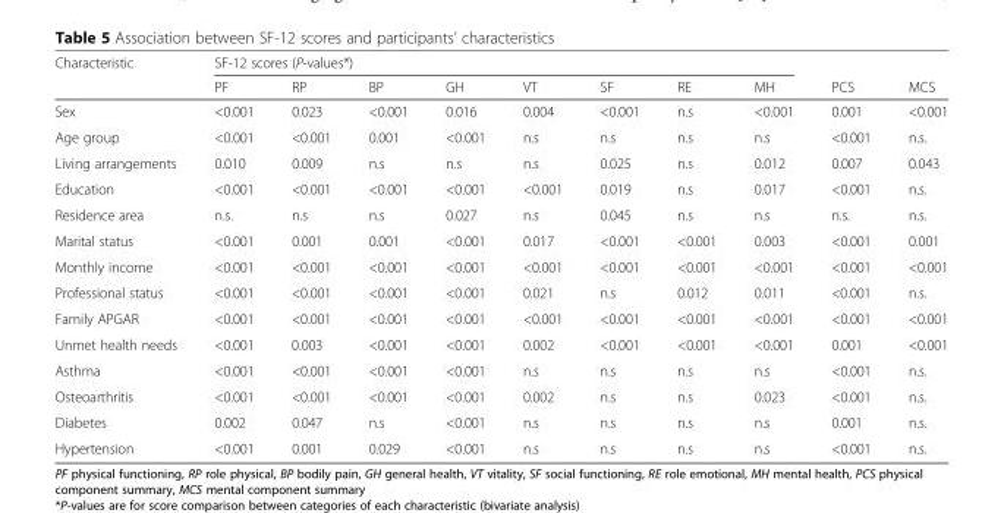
<table><thead><tr><td rowspan="2">Characteristic</td><td colspan="8">SF-12 scores (P-values*)</td><td rowspan="2">PCS</td><td rowspan="2">MCS</td></tr><tr><td>PF</td><td>RP</td><td>BP</td><td>GH</td><td>VT</td><td>SF</td><td>RE</td><td>MH</td></tr></thead><tbody><tr><td>Sex</td><td>&lt;0.001</td><td>0.023</td><td>&lt;0.001</td><td>0.016</td><td>0.004</td><td>&lt;0.001</td><td>n.s</td><td>&lt;0.001</td><td>0.001</td><td>&lt;0.001</td></tr><tr><td>Age group</td><td>&lt;0.001</td><td>&lt;0.001</td><td>0.001</td><td>&lt;0.001</td><td>n.s</td><td>n.s</td><td>n.s</td><td>n.s</td><td>&lt;0.001</td><td>n.s.</td></tr><tr><td>Living arrangements</td><td>0.010</td><td>0.009</td><td>n.s</td><td>n.s</td><td>n.s</td><td>0.025</td><td>n.s</td><td>0.012</td><td>0.007</td><td>0.043</td></tr><tr><td>Education</td><td>&lt;0.001</td><td>&lt;0.001</td><td>&lt;0.001</td><td>&lt;0.001</td><td>&lt;0.001</td><td>0.019</td><td>n.s</td><td>0.017</td><td>&lt;0.001</td><td>n.s.</td></tr><tr><td>Residence area</td><td>n.s.</td><td>n.s</td><td>n.s</td><td>0.027</td><td>n.s</td><td>0.045</td><td>n.s</td><td>n.s</td><td>n.s.</td><td>n.s.</td></tr><tr><td>Marital status</td><td>&lt;0.001</td><td>0.001</td><td>0.001</td><td>&lt;0.001</td><td>0.017</td><td>&lt;0.001</td><td>&lt;0.001</td><td>0.003</td><td>&lt;0.001</td><td>0.001</td></tr><tr><td>Monthly income</td><td>&lt;0.001</td><td>&lt;0.001</td><td>&lt;0.001</td><td>&lt;0.001</td><td>&lt;0.001</td><td>&lt;0.001</td><td>&lt;0.001</td><td>&lt;0.001</td><td>&lt;0.001</td><td>&lt;0.001</td></tr><tr><td>Professional status</td><td>&lt;0.001</td><td>&lt;0.001</td><td>&lt;0.001</td><td>&lt;0.001</td><td>0.021</td><td>n.s</td><td>0.012</td><td>0.011</td><td>&lt;0.001</td><td>n.s.</td></tr><tr><td>Family APGAR</td><td>&lt;0.001</td><td>&lt;0.001</td><td>&lt;0.001</td><td>&lt;0.001</td><td>&lt;0.001</td><td>&lt;0.001</td><td>&lt;0.001</td><td>&lt;0.001</td><td>&lt;0.001</td><td>&lt;0.001</td></tr><tr><td>Unmet health needs</td><td>&lt;0.001</td><td>0.003</td><td>&lt;0.001</td><td>&lt;0.001</td><td>0.002</td><td>&lt;0.001</td><td>&lt;0.001</td><td>&lt;0.001</td><td>0.001</td><td>&lt;0.001</td></tr><tr><td>Asthma</td><td>&lt;0.001</td><td>&lt;0.001</td><td>&lt;0.001</td><td>&lt;0.001</td><td>n.s</td><td>n.s</td><td>n.s</td><td>n.s</td><td>&lt;0.001</td><td>n.s.</td></tr><tr><td>Osteoarthritis</td><td>&lt;0.001</td><td>&lt;0.001</td><td>&lt;0.001</td><td>&lt;0.001</td><td>0.002</td><td>n.s</td><td>n.s</td><td>0.023</td><td>&lt;0.001</td><td>n.s.</td></tr><tr><td>Diabetes</td><td>0.002</td><td>0.047</td><td>n.s</td><td>&lt;0.001</td><td>n.s</td><td>n.s</td><td>n.s</td><td>n.s</td><td>0.001</td><td>n.s.</td></tr><tr><td>Hypertension</td><td>&lt;0.001</td><td>0.001</td><td>0.029</td><td>&lt;0.001</td><td>n.s</td><td>n.s</td><td>n.s</td><td>n.s</td><td>&lt;0.001</td><td>n.s.</td></tr></tbody></table>